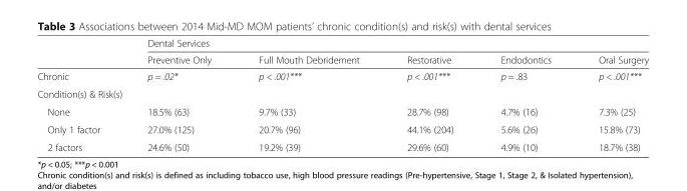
<table><thead><tr><td rowspan="2"></td><td colspan="5">Dental Services</td></tr><tr><td>Preventive Only</td><td>Full Mouth Debridement</td><td>Restorative</td><td>Endodontics</td><td>Oral Surgery</td></tr></thead><tbody><tr><td>Chronic</td><td>p = .02*</td><td>p &lt; .001***</td><td>p &lt; .001***</td><td>p = .83</td><td>p &lt; .001***</td></tr><tr><td colspan="6">Condition(s) &amp; Risk(s)</td></tr><tr><td>None</td><td>18.5% (63)</td><td>9.7% (33)</td><td>28.7% (98)</td><td>4.7% (16)</td><td>7.3% (25)</td></tr><tr><td>Only 1 factor</td><td>27.0% (125)</td><td>20.7% (96)</td><td>44.1% (204)</td><td>5.6% (26)</td><td>15.8% (73)</td></tr><tr><td>2 factors</td><td>24.6% (50)</td><td>19.2% (39)</td><td>29.6% (60)</td><td>4.9% (10)</td><td>18.7% (38)</td></tr></tbody></table>